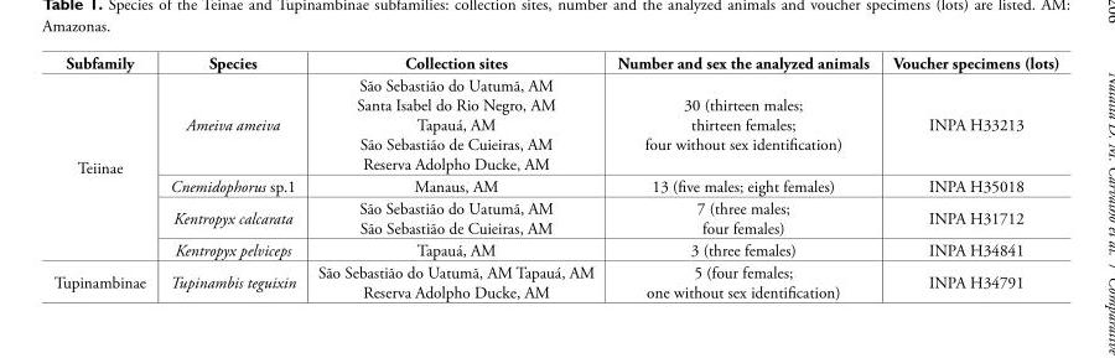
<table><thead><tr><td>Subfamily</td><td>Species</td><td>Collection sites</td><td>Number and sex the analyzed animals</td><td>Voucher specimens (lots)</td></tr></thead><tbody><tr><td rowspan="4">Teiinae</td><td>Ameiva ameiva</td><td>São Sebastião do Uatumã, AM Santa Isabel do Rio Negro, AM Tapauá, AM São Sebastião de Cuieiras, AM Reserva Adolpho Ducke, AM</td><td>30 (thirteen males; thirteen females; four without sex identification)</td><td>INPA H33213</td></tr><tr><td>Cnemidophorus sp.1</td><td>Manaus, AM</td><td>13 (five males; eight females)</td><td>INPA H35018</td></tr><tr><td>Kentropyx calcarata</td><td>São Sebastião do Uatumã, AM São Sebastião de Cuieiras, AM</td><td>7 (three males; four females)</td><td>INPA H31712</td></tr><tr><td>Kentropyx pelviceps</td><td>Tapauá, AM</td><td>3 (three females)</td><td>INPA H34841</td></tr><tr><td>Tupinambinae</td><td>Tupinambis teguixin</td><td>São Sebastião do Uatumã, AM Tapauá, AM Reserva Adolpho Ducke, AM</td><td>5 (four females; one without sex identification)</td><td>INPA H34791</td></tr></tbody></table>